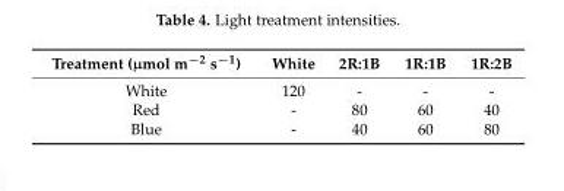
<table><thead><tr><td>Treatment (µmol m<sup>−2</sup> s<sup>−1</sup>)</td><td>White</td><td>2R:1B</td><td>1R:1B</td><td>1R:2B</td></tr></thead><tbody><tr><td>White</td><td>120</td><td>-</td><td>-</td><td>-</td></tr><tr><td>Red</td><td>-</td><td>80</td><td>60</td><td>40</td></tr><tr><td>Blue</td><td>-</td><td>40</td><td>60</td><td>80</td></tr></tbody></table>